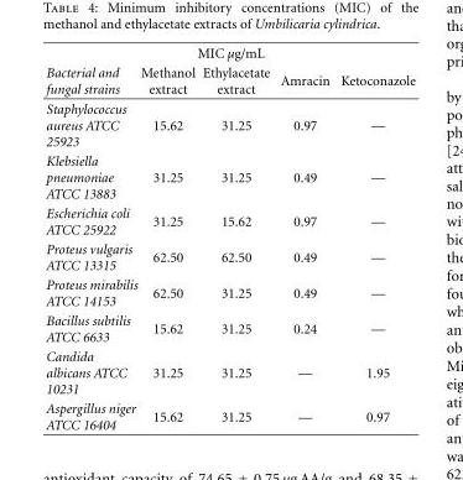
<table><thead><tr><td colspan="5">MIC μg/mL</td></tr><tr><td>Bacterial and fungal strains</td><td>Methanol extract</td><td>Ethylacetate extract</td><td>Amracin</td><td>Ketoconazole</td></tr></thead><tbody><tr><td>Staphylococcus aureus ATCC 25923</td><td>15.62</td><td>31.25</td><td>0.97</td><td>—</td></tr><tr><td>Klebsiella pneumoniae ATCC 13883</td><td>31.25</td><td>31.25</td><td>0.49</td><td>—</td></tr><tr><td>Escherichia coli ATCC 25922</td><td>31.25</td><td>15.62</td><td>0.97</td><td>—</td></tr><tr><td>Proteus vulgaris ATCC 13315</td><td>62.50</td><td>62.50</td><td>0.49</td><td>—</td></tr><tr><td>Proteus mirabilis ATCC 14153</td><td>62.50</td><td>31.25</td><td>0.49</td><td>—</td></tr><tr><td>Bacillus subtilis ATCC 6633</td><td>15.62</td><td>31.25</td><td>0.24</td><td>—</td></tr><tr><td>Candida albicans ATCC 10231</td><td>31.25</td><td>31.25</td><td>—</td><td>1.95</td></tr><tr><td>Aspergillus niger ATCC 16404</td><td>15.62</td><td>31.25</td><td>—</td><td>0.97</td></tr></tbody></table>